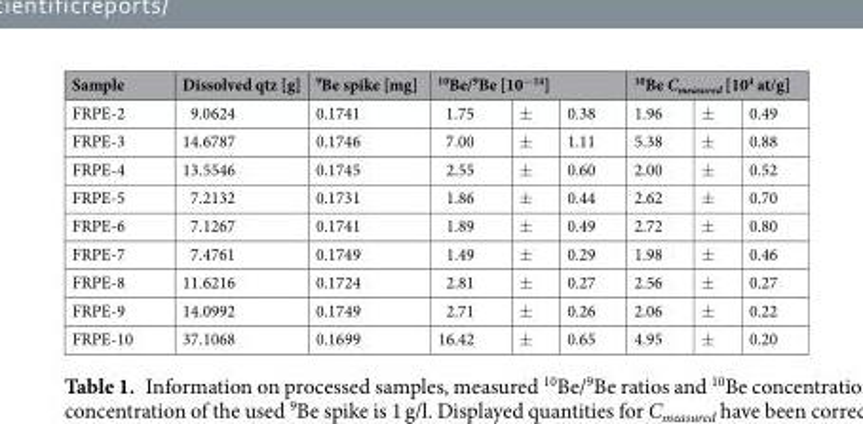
<table><thead><tr><td rowspan="2">Sample FRPE-2</td><td rowspan="2">Dissolved qtz [g] 9.0624</td><td rowspan="2"><sup>9</sup>Be spike [mg] 0.1741</td><td colspan="3"><sup>10</sup>Be/<sup>9</sup>Be [10<sup>−14</sup>]</td><td colspan="3"><sup>10</sup>Be C<sub>measured</sub> [10<sup>4</sup> at/g]</td></tr><tr><td>1.75</td><td>±</td><td>0.38</td><td>1.96</td><td>±</td><td>0.49</td></tr></thead><tbody><tr><td>FRPE-3</td><td>14.6787</td><td>0.1746</td><td>7.00</td><td>±</td><td>1.11</td><td>5.38</td><td>±</td><td>0.88</td></tr><tr><td>FRPE-4</td><td>13.5546</td><td>0.1745</td><td>2.55</td><td>±</td><td>0.60</td><td>2.00</td><td>±</td><td>0.52</td></tr><tr><td>FRPE-5</td><td>7.2132</td><td>0.1731</td><td>1.86</td><td>±</td><td>0.44</td><td>2.62</td><td>±</td><td>0.70</td></tr><tr><td>FRPE-6</td><td>7.1267</td><td>0.1741</td><td>1.89</td><td>±</td><td>0.49</td><td>2.72</td><td>±</td><td>0.80</td></tr><tr><td>FRPE-7</td><td>7.4761</td><td>0.1749</td><td>1.49</td><td>±</td><td>0.29</td><td>1.98</td><td>±</td><td>0.46</td></tr><tr><td>FRPE-8</td><td>11.6216</td><td>0.1724</td><td>2.81</td><td>±</td><td>0.27</td><td>2.56</td><td>±</td><td>0.27</td></tr><tr><td>FRPE-9</td><td>14.0992</td><td>0.1749</td><td>2.71</td><td>±</td><td>0.26</td><td>2.06</td><td>±</td><td>0.22</td></tr><tr><td>FRPE-10</td><td>37.1068</td><td>0.1699</td><td>16.42</td><td>±</td><td>0.65</td><td>4.95</td><td>±</td><td>0.20</td></tr></tbody></table>